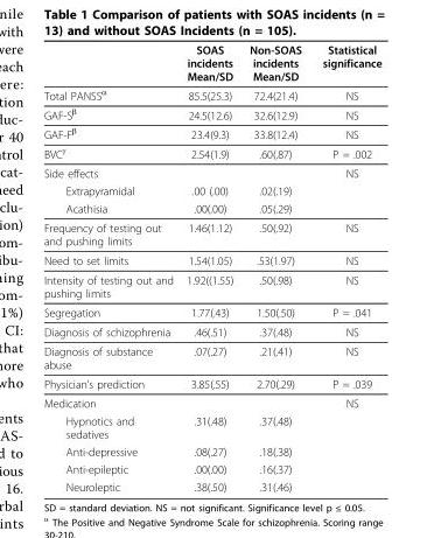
<table><thead><tr><td></td><td>SOAS incidents Mean/SD</td><td>Non-SOAS incidents Mean/SD</td><td>Statistical significance</td></tr></thead><tbody><tr><td>Total PANSS<sup>α</sup></td><td>85.5(25.3)</td><td>72.4(21.4)</td><td>NS</td></tr><tr><td>GAF-S<sup>β</sup></td><td>24.5(12.6)</td><td>32.6(12.9)</td><td>NS</td></tr><tr><td>GAF-F<sup>β</sup></td><td>23.4(9.3)</td><td>33.8(12.4)</td><td>NS</td></tr><tr><td>BVC<sup>γ</sup></td><td>2.54(1.9)</td><td>.60(.87)</td><td>P = .002</td></tr><tr><td>Side effects</td><td></td><td></td><td>NS</td></tr><tr><td>Extrapyramidal</td><td>.00 (.00)</td><td>.02(.19)</td><td></td></tr><tr><td>Acathisia</td><td>.00(.00)</td><td>.05(.29)</td><td></td></tr><tr><td>Frequency of testing out and pushing limits</td><td>1.46(1.12)</td><td>.50(.92)</td><td>NS</td></tr><tr><td>Need to set limits</td><td>1.54(1.05)</td><td>.53(1.97)</td><td>NS</td></tr><tr><td>Intensity of testing out and pushing limits</td><td>1.92((1.55)</td><td>.50(.98)</td><td>NS</td></tr><tr><td>Segregation</td><td>1.77(.43)</td><td>1.50(.50)</td><td>P = .041</td></tr><tr><td>Diagnosis of schizophrenia</td><td>.46(.51)</td><td>.37(.48)</td><td>NS</td></tr><tr><td>Diagnosis of substance abuse</td><td>.07(.27)</td><td>.21(.41)</td><td>NS</td></tr><tr><td>Physician’s prediction</td><td>3.85(.55)</td><td>2.70(.29)</td><td>P = .039</td></tr><tr><td>Medication</td><td></td><td></td><td>NS</td></tr><tr><td>Hypnotics and sedatives</td><td>.31(.48)</td><td>.37(.48)</td><td></td></tr><tr><td>Anti-depressive</td><td>.08(.27)</td><td>.18(.38)</td><td></td></tr><tr><td>Anti-epileptic</td><td>.00(.00)</td><td>.16(.37)</td><td></td></tr><tr><td>Neuroleptic</td><td>.38(.50)</td><td>.31(.46)</td><td></td></tr></tbody></table>